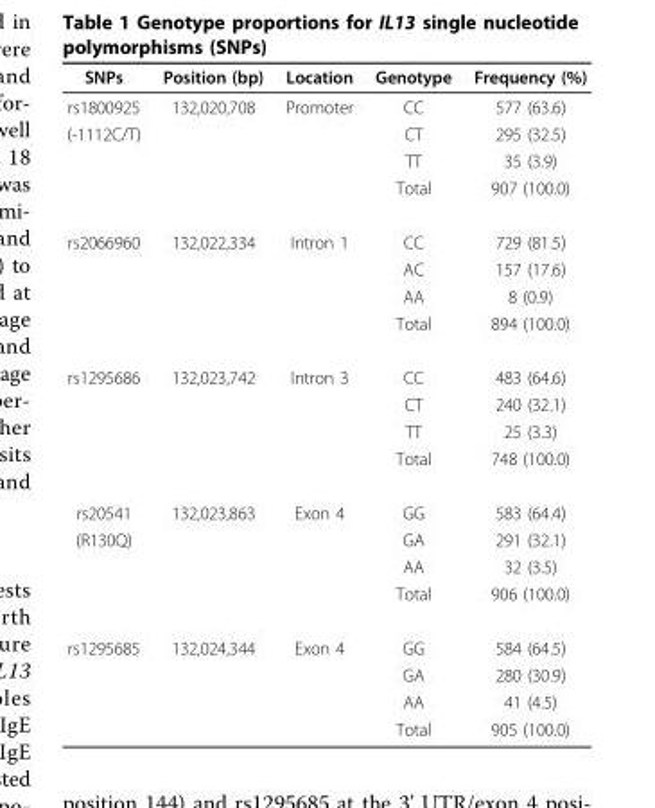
<table><thead><tr><td>SNPs</td><td>Position (bp)</td><td>Location</td><td>Genotype</td><td>Frequency (%)</td></tr></thead><tbody><tr><td>rs1800925</td><td>132,020,708</td><td>Promoter</td><td>CC</td><td>577 (63.6)</td></tr><tr><td rowspan="3">(-1112C/T)</td><td></td><td></td><td>CT</td><td>295 (32.5)</td></tr><tr><td></td><td></td><td>TT</td><td>35 (3.9)</td></tr><tr><td></td><td></td><td>Total</td><td>907 (100.0)</td></tr><tr><td rowspan="4">rs2066960</td><td>132,022,334</td><td>Intron 1</td><td>CC</td><td>729 (81.5)</td></tr><tr><td></td><td></td><td>AC</td><td>157 (17.6)</td></tr><tr><td></td><td></td><td>AA</td><td>8 (0.9)</td></tr><tr><td></td><td></td><td>Total</td><td>894 (100.0)</td></tr><tr><td rowspan="4">rs1295686</td><td>132,023,742</td><td>Intron 3</td><td>CC</td><td>483 (64.6)</td></tr><tr><td></td><td></td><td>CT</td><td>240 (32.1)</td></tr><tr><td></td><td></td><td>TT</td><td>25 (3.3)</td></tr><tr><td></td><td></td><td>Total</td><td>748 (100.0)</td></tr><tr><td>rs20541</td><td>132,023,863</td><td>Exon 4</td><td>GG</td><td>583 (64.4)</td></tr><tr><td rowspan="3">(R130Q)</td><td></td><td></td><td>GA</td><td>291 (32.1)</td></tr><tr><td></td><td></td><td>AA</td><td>32 (3.5)</td></tr><tr><td></td><td></td><td>Total</td><td>906 (100.0)</td></tr><tr><td rowspan="4">rs1295685</td><td>132,024,344</td><td>Exon 4</td><td>GG</td><td>584 (64.5)</td></tr><tr><td></td><td></td><td>GA</td><td>280 (30.9)</td></tr><tr><td></td><td></td><td>AA</td><td>41 (4.5)</td></tr><tr><td></td><td></td><td>Total</td><td>905 (100.0)</td></tr></tbody></table>